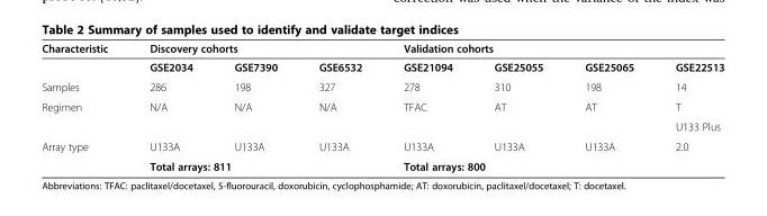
<table><thead><tr><td rowspan="2">Characteristic</td><td colspan="3">Discovery cohorts</td><td colspan="4">Validation cohorts</td></tr><tr><td>GSE2034</td><td>GSE7390</td><td>GSE6532</td><td>GSE21094</td><td>GSE25055</td><td>GSE25065</td><td>GSE22513</td></tr></thead><tbody><tr><td>Samples</td><td>286</td><td>198</td><td>327</td><td>278</td><td>310</td><td>198</td><td>14</td></tr><tr><td rowspan="2">Regimen</td><td>N/A</td><td>N/A</td><td>N/A</td><td>TFAC</td><td>AT</td><td>AT</td><td>T</td></tr><tr><td></td><td></td><td></td><td></td><td></td><td></td><td>U133 Plus</td></tr><tr><td rowspan="2">Array type</td><td>U133A</td><td>U133A</td><td>U133A</td><td>U133A</td><td>U133A</td><td>U133A</td><td>2.0</td></tr><tr><td colspan="3">Total arrays: 811</td><td colspan="4">Total arrays: 800</td></tr></tbody></table>